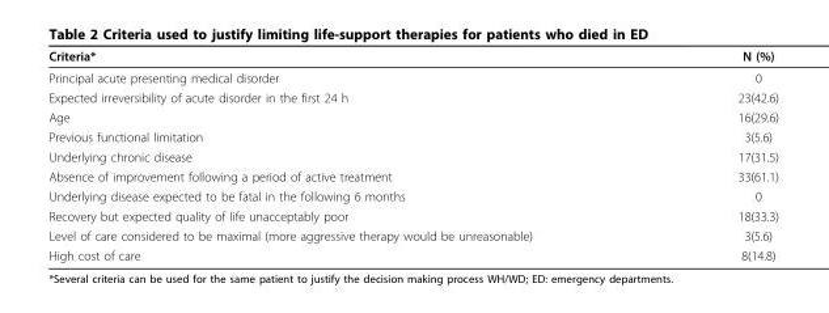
<table><thead><tr><td>Criteria*</td><td>N (%)</td></tr></thead><tbody><tr><td>Principal acute presenting medical disorder</td><td>0</td></tr><tr><td>Expected irreversibility of acute disorder in the first 24 h</td><td>23(42.6)</td></tr><tr><td>Age</td><td>16(29.6)</td></tr><tr><td>Previous functional limitation</td><td>3(5.6)</td></tr><tr><td>Underlying chronic disease</td><td>17(31.5)</td></tr><tr><td>Absence of improvement following a period of active treatment</td><td>33(61.1)</td></tr><tr><td>Underlying disease expected to be fatal in the following 6 months</td><td>0</td></tr><tr><td>Recovery but expected quality of life unacceptably poor</td><td>18(33.3)</td></tr><tr><td>Level of care considered to be maximal (more aggressive therapy would be unreasonable)</td><td>3(5.6)</td></tr><tr><td>High cost of care</td><td>8(14.8)</td></tr></tbody></table>